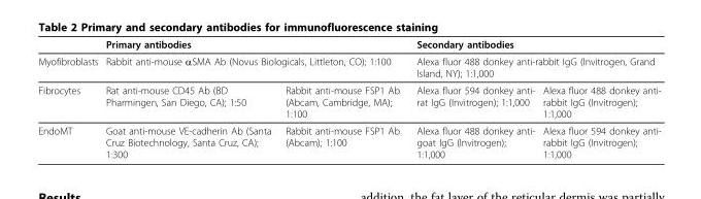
<table><thead><tr><td rowspan="3">Myofibroblasts Fibrocytes</td><td rowspan="2" colspan="2">Primary antibodies Rabbit anti-mouse αSMA Ab (Novus Biologicals, Littleton, CO); 1:100</td><td rowspan="2" colspan="2">Secondary antibodies Alexa fluor 488 donkey anti-rabbit IgG (Invitrogen, Grand Island, NY); 1:1,000</td></tr><tr></tr><tr><td>Rat anti-mouse CD45 Ab (BD Pharmingen, San Diego, CA); 1:50</td><td>Rabbit anti-mouse FSP1 Ab (Abcam, Cambridge, MA); 1:100</td><td>Alexa fluor 594 donkey anti- rat IgG (Invitrogen); 1:1,000</td><td>Alexa fluor 488 donkey anti- rabbit IgG (Invitrogen); 1:1,000</td></tr></thead><tbody><tr><td>EndoMT</td><td>Goat anti-mouse VE-cadherin Ab (Santa Cruz Biotechnology, Santa Cruz, CA); 1:300</td><td>Rabbit anti-mouse FSP1 Ab (Abcam); 1:100</td><td>Alexa fluor 488 donkey anti- goat IgG (Invitrogen); 1:1,000</td><td>Alexa fluor 594 donkey anti- rabbit IgG (Invitrogen); 1:1,000</td></tr></tbody></table>